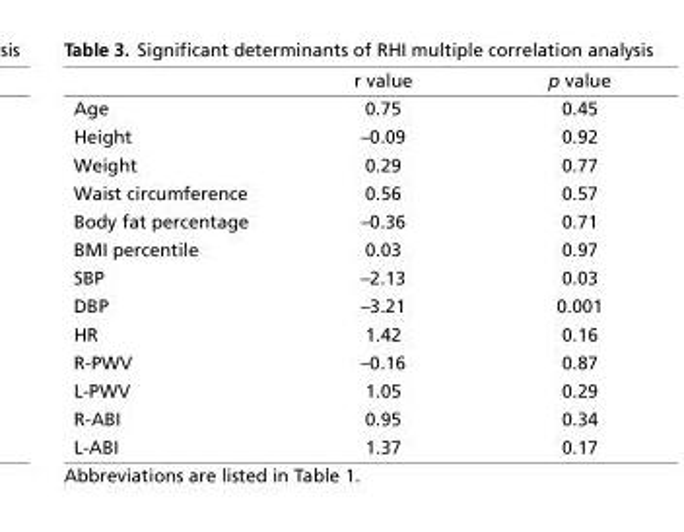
<table><thead><tr><td></td><td>r value</td><td>p value</td></tr></thead><tbody><tr><td>Age</td><td>0.75</td><td>0.45</td></tr><tr><td>Height</td><td>–0.09</td><td>0.92</td></tr><tr><td>Weight</td><td>0.29</td><td>0.77</td></tr><tr><td>Waist circumference</td><td>0.56</td><td>0.57</td></tr><tr><td>Body fat percentage</td><td>–0.36</td><td>0.71</td></tr><tr><td>BMI percentile</td><td>0.03</td><td>0.97</td></tr><tr><td>SBP</td><td>–2.13</td><td>0.03</td></tr><tr><td>DBP</td><td>–3.21</td><td>0.001</td></tr><tr><td>HR</td><td>1.42</td><td>0.16</td></tr><tr><td>R-PWV</td><td>–0.16</td><td>0.87</td></tr><tr><td>L-PWV</td><td>1.05</td><td>0.29</td></tr><tr><td>R-ABI</td><td>0.95</td><td>0.34</td></tr><tr><td>L-ABI</td><td>1.37</td><td>0.17</td></tr></tbody></table>